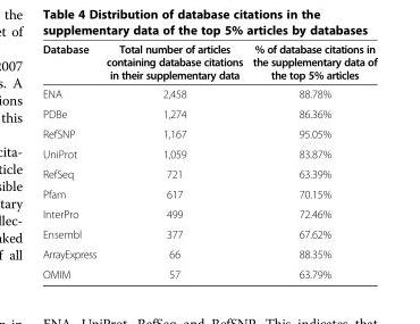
<table><thead><tr><td>Database</td><td>Total number of articles containing database citations in their supplementary data</td><td>% of database citations in the supplementary data of the top 5% articles</td></tr></thead><tbody><tr><td>ENA</td><td>2,458</td><td>88.78%</td></tr><tr><td>PDBe</td><td>1,274</td><td>86.36%</td></tr><tr><td>RefSNP</td><td>1,167</td><td>95.05%</td></tr><tr><td>UniProt</td><td>1,059</td><td>83.87%</td></tr><tr><td>RefSeq</td><td>721</td><td>63.39%</td></tr><tr><td>Pfam</td><td>617</td><td>70.15%</td></tr><tr><td>InterPro</td><td>499</td><td>72.46%</td></tr><tr><td>Ensembl</td><td>377</td><td>67.62%</td></tr><tr><td>ArrayExpress</td><td>66</td><td>88.35%</td></tr><tr><td>OMIM</td><td>57</td><td>63.79%</td></tr></tbody></table>